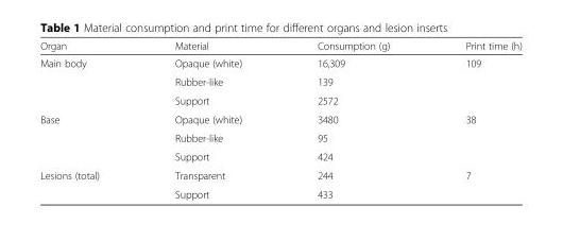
<table><thead><tr><td>Organ</td><td>Material</td><td>Consumption (g)</td><td>Print time (h)</td></tr></thead><tbody><tr><td rowspan="3">Main body</td><td>Opaque (white)</td><td>16,309</td><td rowspan="3">109</td></tr><tr><td>Rubber-like</td><td>139</td></tr><tr><td>Support</td><td>2572</td></tr><tr><td rowspan="3">Base</td><td>Opaque (white)</td><td>3480</td><td rowspan="3">38</td></tr><tr><td>Rubber-like</td><td>95</td></tr><tr><td>Support</td><td>424</td></tr><tr><td rowspan="2">Lesions (total)</td><td>Transparent</td><td>244</td><td rowspan="2">7</td></tr><tr><td>Support</td><td>433</td></tr></tbody></table>